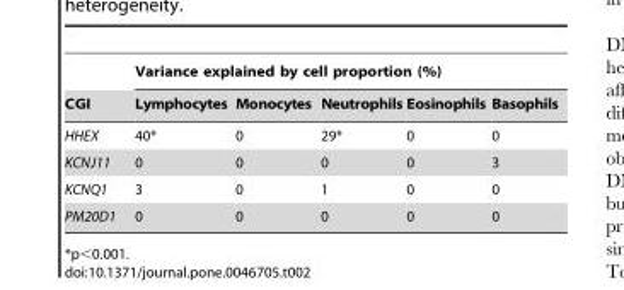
<table><thead><tr><td rowspan="2">CGI</td><td colspan="5">Variance explained by cell proportion (%)</td></tr><tr><td>Lymphocytes</td><td>Monocytes</td><td>Neutrophils</td><td>Eosinophils</td><td>Basophils</td></tr></thead><tbody><tr><td>HHEX</td><td>40*</td><td>0</td><td>29*</td><td>0</td><td>0</td></tr><tr><td>KCNJ11</td><td>0</td><td>0</td><td>0</td><td>0</td><td>3</td></tr><tr><td>KCNQ1</td><td>3</td><td>0</td><td>1</td><td>0</td><td>0</td></tr><tr><td>PM20D1</td><td>0</td><td>0</td><td>0</td><td>0</td><td>0</td></tr></tbody></table>